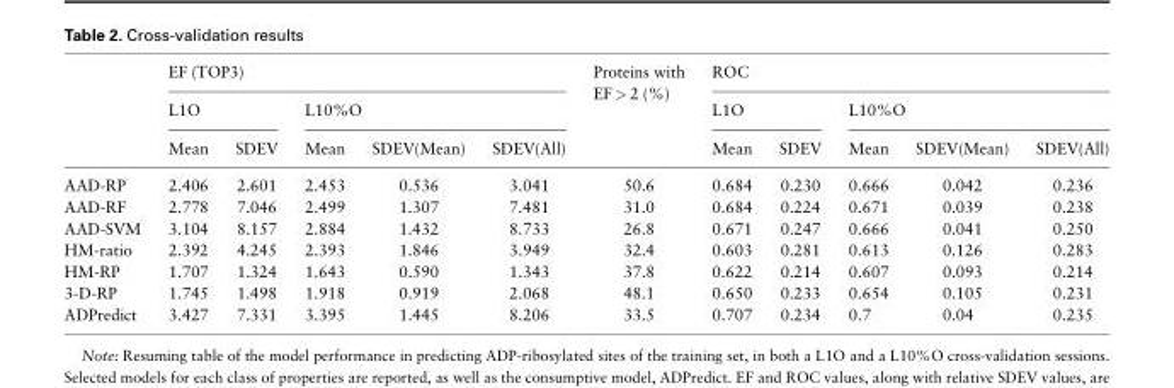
<table><thead><tr><td rowspan="3"></td><td colspan="5">EF (TOP3)</td><td rowspan="3">Proteins with EF &gt; 2 (%)</td><td colspan="5">ROC</td></tr><tr><td colspan="2">L1O</td><td colspan="3">L10%O</td><td colspan="2">L1O</td><td colspan="3">L10%O</td></tr><tr><td>Mean</td><td>SDEV</td><td>Mean</td><td>SDEV(Mean)</td><td>SDEV(All)</td><td>Mean</td><td>SDEV</td><td>Mean</td><td>SDEV(Mean)</td><td>SDEV(All)</td></tr></thead><tbody><tr><td>AAD-RP</td><td>2.406</td><td>2.601</td><td>2.453</td><td>0.536</td><td>3.041</td><td>50.6</td><td>0.684</td><td>0.230</td><td>0.666</td><td>0.042</td><td>0.236</td></tr><tr><td>AAD-RF</td><td>2.778</td><td>7.046</td><td>2.499</td><td>1.307</td><td>7.481</td><td>31.0</td><td>0.684</td><td>0.224</td><td>0.671</td><td>0.039</td><td>0.238</td></tr><tr><td>AAD-SVM</td><td>3.104</td><td>8.157</td><td>2.884</td><td>1.432</td><td>8.733</td><td>26.8</td><td>0.671</td><td>0.247</td><td>0.666</td><td>0.041</td><td>0.250</td></tr><tr><td>HM-ratio</td><td>2.392</td><td>4.245</td><td>2.393</td><td>1.846</td><td>3.949</td><td>32.4</td><td>0.603</td><td>0.281</td><td>0.613</td><td>0.126</td><td>0.283</td></tr><tr><td>HM-RP</td><td>1.707</td><td>1.324</td><td>1.643</td><td>0.590</td><td>1.343</td><td>37.8</td><td>0.622</td><td>0.214</td><td>0.607</td><td>0.093</td><td>0.214</td></tr><tr><td>3-D-RP</td><td>1.745</td><td>1.498</td><td>1.918</td><td>0.919</td><td>2.068</td><td>48.1</td><td>0.650</td><td>0.233</td><td>0.654</td><td>0.105</td><td>0.231</td></tr><tr><td>ADPredict</td><td>3.427</td><td>7.331</td><td>3.395</td><td>1.445</td><td>8.206</td><td>33.5</td><td>0.707</td><td>0.234</td><td>0.7</td><td>0.04</td><td>0.235</td></tr></tbody></table>